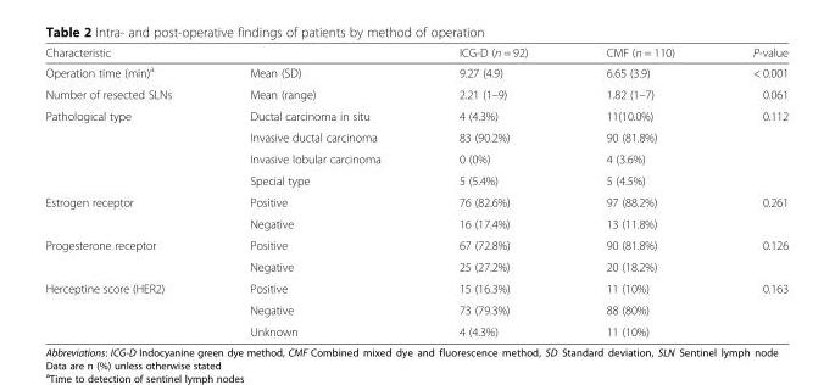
<table><thead><tr><td>Characteristic</td><td></td><td>ICG-D (n = 92)</td><td>CMF (n = 110)</td><td>P-value</td></tr></thead><tbody><tr><td>Operation time (min)<sup>a</sup></td><td>Mean (SD)</td><td>9.27 (4.9)</td><td>6.65 (3.9)</td><td>&lt; 0.001</td></tr><tr><td>Number of resected SLNs</td><td>Mean (range)</td><td>2.21 (1–9)</td><td>1.82 (1–7)</td><td>0.061</td></tr><tr><td rowspan="4">Pathological type</td><td>Ductal carcinoma in situ</td><td>4 (4.3%)</td><td>11(10.0%)</td><td>0.112</td></tr><tr><td>Invasive ductal carcinoma</td><td>83 (90.2%)</td><td>90 (81.8%)</td><td></td></tr><tr><td>Invasive lobular carcinoma</td><td>0 (0%)</td><td>4 (3.6%)</td><td></td></tr><tr><td>Special type</td><td>5 (5.4%)</td><td>5 (4.5%)</td><td></td></tr><tr><td rowspan="2">Estrogen receptor</td><td>Positive</td><td>76 (82.6%)</td><td>97 (88.2%)</td><td>0.261</td></tr><tr><td>Negative</td><td>16 (17.4%)</td><td>13 (11.8%)</td><td></td></tr><tr><td rowspan="2">Progesterone receptor</td><td>Positive</td><td>67 (72.8%)</td><td>90 (81.8%)</td><td>0.126</td></tr><tr><td>Negative</td><td>25 (27.2%)</td><td>20 (18.2%)</td><td></td></tr><tr><td rowspan="3">Herceptine score (HER2)</td><td>Positive</td><td>15 (16.3%)</td><td>11 (10%)</td><td>0.163</td></tr><tr><td>Negative</td><td>73 (79.3%)</td><td>88 (80%)</td><td></td></tr><tr><td>Unknown</td><td>4 (4.3%)</td><td>11 (10%)</td><td></td></tr></tbody></table>